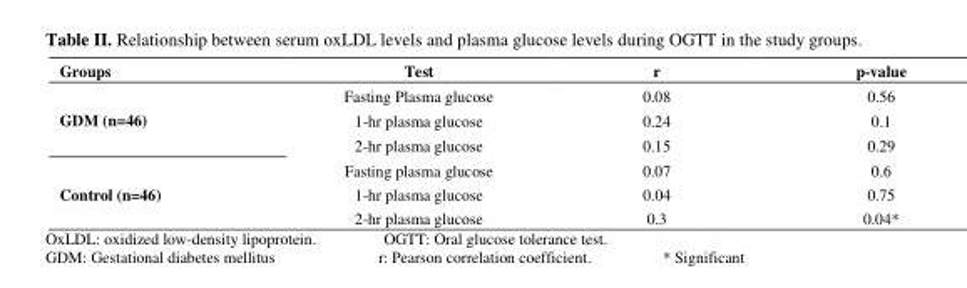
<table><thead><tr><td>Groups</td><td>Test</td><td>r</td><td>p-value</td></tr></thead><tbody><tr><td rowspan="3">GDM (n=46)</td><td>Fasting Plasma glucose</td><td>0.08</td><td>0.56</td></tr><tr><td>1-hr plasma glucose</td><td>0.24</td><td>0.1</td></tr><tr><td>2-hr plasma glucose</td><td>0.15</td><td>0.29</td></tr><tr><td rowspan="3">Control (n=46)</td><td>Fasting plasma glucose</td><td>0.07</td><td>0.6</td></tr><tr><td>1-hr plasma glucose</td><td>0.04</td><td>0.75</td></tr><tr><td>2-hr plasma glucose</td><td>0.3</td><td>0.04*</td></tr></tbody></table>